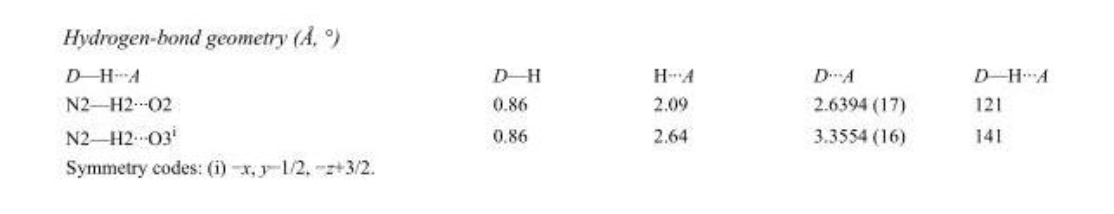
<table><tbody><tr><td>D—H···A</td><td>D—H</td><td>H···A</td><td>D···A</td><td>D—H···A</td></tr><tr><td>N2—H2···O2</td><td>0.86</td><td>2.09</td><td>2.6394 (17)</td><td>121</td></tr><tr><td>N2—H2···O3<sup>i</sup></td><td>0.86</td><td>2.64</td><td>3.3554 (16)</td><td>141</td></tr></tbody></table>